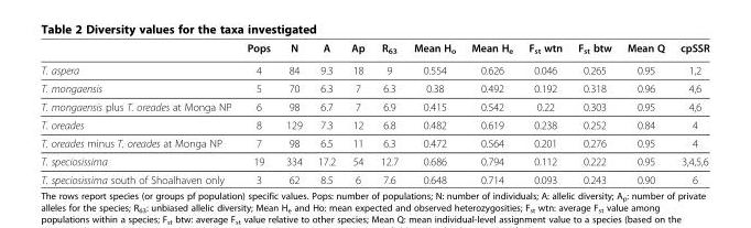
<table><thead><tr><td></td><td>Pops</td><td>N</td><td>A</td><td>Ap</td><td>R<sub>63</sub></td><td>Mean H<sub>o</sub></td><td>Mean H<sub>e</sub></td><td>F<sub>st</sub> wtn</td><td>F<sub>st</sub> btw</td><td>Mean Q</td><td>cpSSR</td></tr></thead><tbody><tr><td>T. aspera</td><td>4</td><td>84</td><td>9.3</td><td>18</td><td>9</td><td>0.554</td><td>0.626</td><td>0.046</td><td>0.265</td><td>0.95</td><td>1,2</td></tr><tr><td>T. mongaensis</td><td>5</td><td>70</td><td>6.3</td><td>7</td><td>6.3</td><td>0.38</td><td>0.492</td><td>0.192</td><td>0.318</td><td>0.96</td><td>4,6</td></tr><tr><td>T. mongaensis plus T. oreades at Monga NP</td><td>6</td><td>98</td><td>6.7</td><td>7</td><td>6.9</td><td>0.415</td><td>0.542</td><td>0.22</td><td>0.303</td><td>0.95</td><td>4,6</td></tr><tr><td>T. oreades</td><td>8</td><td>129</td><td>7.3</td><td>12</td><td>6.8</td><td>0.482</td><td>0.619</td><td>0.238</td><td>0.252</td><td>0.84</td><td>4</td></tr><tr><td>T. oreades minus T. oreades at Monga NP</td><td>7</td><td>98</td><td>6.5</td><td>11</td><td>6.3</td><td>0.472</td><td>0.564</td><td>0.201</td><td>0.276</td><td>0.95</td><td>4</td></tr><tr><td>T. speciosissima</td><td>19</td><td>334</td><td>17.2</td><td>54</td><td>12.7</td><td>0.686</td><td>0.794</td><td>0.112</td><td>0.222</td><td>0.95</td><td>3,4,5,6</td></tr><tr><td>T. speciosissima south of Shoalhaven only</td><td>3</td><td>62</td><td>8.5</td><td>6</td><td>7.6</td><td>0.648</td><td>0.714</td><td>0.093</td><td>0.243</td><td>0.90</td><td>6</td></tr></tbody></table>